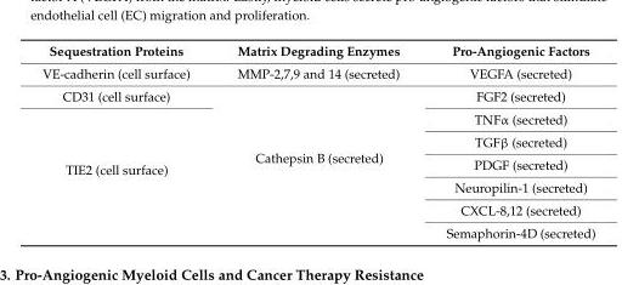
<table><thead><tr><td>Sequestration Proteins</td><td>Matrix Degrading Enzymes</td><td>Pro-Angiogenic Factors</td></tr></thead><tbody><tr><td>VE-cadherin (cell surface)</td><td>MMP-2,7,9 and 14 (secreted)</td><td>VEGFA (secreted)</td></tr><tr><td>CD31 (cell surface)</td><td rowspan="7">Cathepsin B (secreted)</td><td>FGF2 (secreted)</td></tr><tr><td rowspan="6">TIE2 (cell surface)</td><td>TNFα (secreted)</td></tr><tr><td>TGFβ (secreted)</td></tr><tr><td>PDGF (secreted)</td></tr><tr><td>Neuropilin-1 (secreted)</td></tr><tr><td>CXCL-8,12 (secreted)</td></tr><tr><td>Semaphorin-4D (secreted)</td></tr></tbody></table>